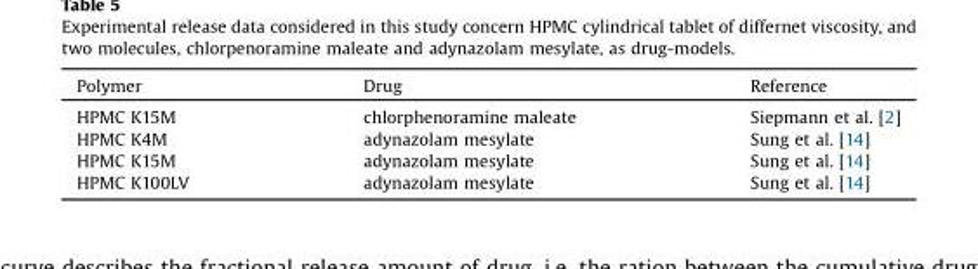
<table><thead><tr><td>Polymer</td><td>Drug</td><td>Reference</td></tr></thead><tbody><tr><td>HPMC K15M</td><td>chlorphenoramine maleate</td><td>Siepmann et al. [2]</td></tr><tr><td>HPMC K4M</td><td>adynazolam mesylate</td><td>Sung et al. [14]</td></tr><tr><td>HPMC K15M</td><td>adynazolam mesylate</td><td>Sung et al. [14]</td></tr><tr><td>HPMC K100LV</td><td>adynazolam mesylate</td><td>Sung et al. [14]</td></tr></tbody></table>